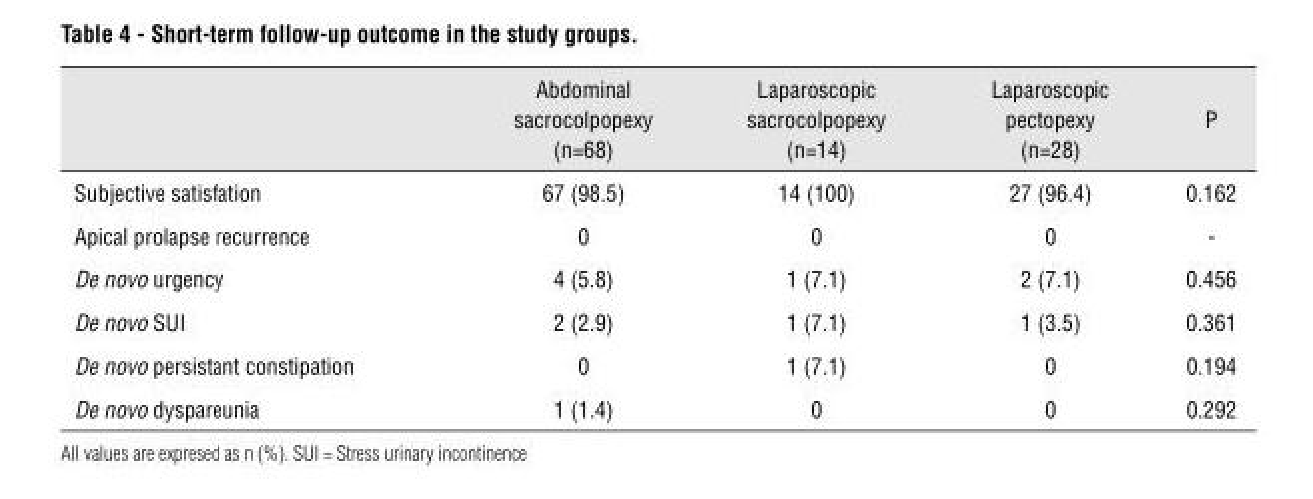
<table><thead><tr><td></td><td>Abdominal sacrocolpopexy (n=68)</td><td>Laparoscopic sacrocolpopexy (n=14)</td><td>Laparoscopic pectopexy (n=28)</td><td>P</td></tr></thead><tbody><tr><td>Subjective satisfation</td><td>67 (98.5)</td><td>14 (100)</td><td>27 (96.4)</td><td>0.162</td></tr><tr><td>Apical prolapse recurrence</td><td>0</td><td>0</td><td>0</td><td>-</td></tr><tr><td>De novo urgency</td><td>4 (5.8)</td><td>1 (7.1)</td><td>2 (7.1)</td><td>0.456</td></tr><tr><td>De novo SUI</td><td>2 (2.9)</td><td>1 (7.1)</td><td>1 (3.5)</td><td>0.361</td></tr><tr><td>De novo persistant constipation</td><td>0</td><td>1 (7.1)</td><td>0</td><td>0.194</td></tr><tr><td>De novo dyspareunia</td><td>1 (1.4)</td><td>0</td><td>0</td><td>0.292</td></tr></tbody></table>